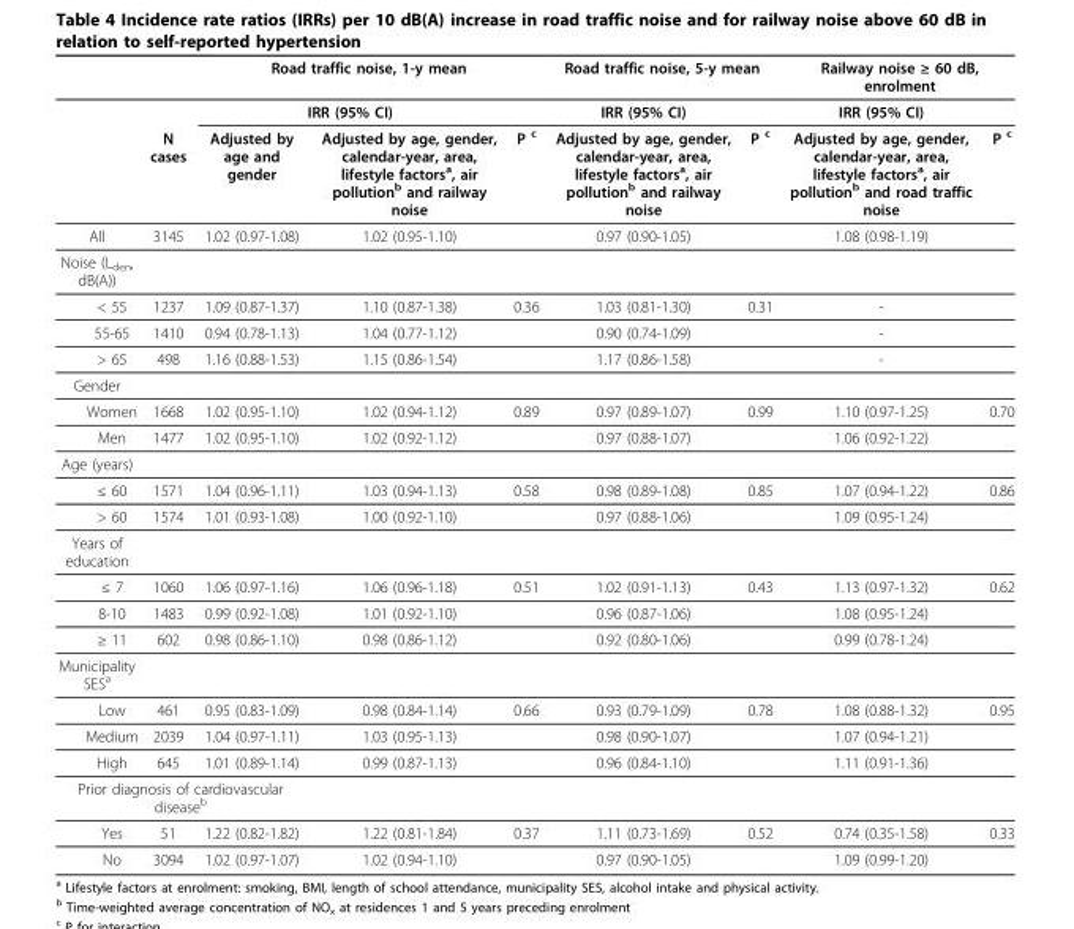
<table><thead><tr><td rowspan="3"></td><td rowspan="3">N cases</td><td colspan="3">Road traffic noise, 1-y mean</td><td colspan="2">Road traffic noise, 5-y mean</td><td colspan="2">Railway noise ≥ 60 dB, enrolment</td></tr><tr><td colspan="2">IRR (95% CI)</td><td rowspan="2">P <sup>c</sup></td><td rowspan="2">IRR (95% CI) Adjusted by age, gender, calendar-year, area, lifestyle factors<sup>a</sup>, air pollution<sup>b</sup> and railway noise</td><td rowspan="2">P <sup>c</sup></td><td rowspan="2">IRR (95% CI) Adjusted by age, gender, calendar-year, area, lifestyle factors<sup>a</sup>, air pollution<sup>b</sup> and road traffic noise</td><td rowspan="2">P <sup>c</sup></td></tr><tr><td>Adjusted by age and gender</td><td>Adjusted by age, gender, calendar-year, area, lifestyle factors<sup>a</sup>, air pollution<sup>b</sup> and railway noise</td></tr></thead><tbody><tr><td>All</td><td>3145</td><td>1.02 (0.97-1.08)</td><td>1.02 (0.95-1.10)</td><td></td><td>0.97 (0.90-1.05)</td><td></td><td>1.08 (0.98-1.19)</td><td></td></tr><tr><td colspan="9">Noise (L<sub>den</sub>, dB(A))</td></tr><tr><td>&lt; 55</td><td>1237</td><td>1.09 (0.87-1.37)</td><td>1.10 (0.87-1.38)</td><td>0.36</td><td>1.03 (0.81-1.30)</td><td>0.31</td><td>-</td><td></td></tr><tr><td>55-65</td><td>1410</td><td>0.94 (0.78-1.13)</td><td>1.04 (0.77-1.12)</td><td></td><td>0.90 (0.74-1.09)</td><td></td><td>-</td><td></td></tr><tr><td>&gt; 65</td><td>498</td><td>1.16 (0.88-1.53)</td><td>1.15 (0.86-1.54)</td><td></td><td>1.17 (0.86-1.58)</td><td></td><td>-</td><td></td></tr><tr><td colspan="9">Gender</td></tr><tr><td>Women</td><td>1668</td><td>1.02 (0.95-1.10)</td><td>1.02 (0.94-1.12)</td><td>0.89</td><td>0.97 (0.89-1.07)</td><td>0.99</td><td>1.10 (0.97-1.25)</td><td>0.70</td></tr><tr><td>Men</td><td>1477</td><td>1.02 (0.95-1.10)</td><td>1.02 (0.92-1.12)</td><td></td><td>0.97 (0.88-1.07)</td><td></td><td>1.06 (0.92-1.22)</td><td></td></tr><tr><td colspan="9">Age (years)</td></tr><tr><td>≤ 60</td><td>1571</td><td>1.04 (0.96-1.11)</td><td>1.03 (0.94-1.13)</td><td>0.58</td><td>0.98 (0.89-1.08)</td><td>0.85</td><td>1.07 (0.94-1.22)</td><td>0.86</td></tr><tr><td>&gt; 60</td><td>1574</td><td>1.01 (0.93-1.08)</td><td>1.00 (0.92-1.10)</td><td></td><td>0.97 (0.88-1.06)</td><td></td><td>1.09 (0.95-1.24)</td><td></td></tr><tr><td colspan="9">Years of education</td></tr><tr><td>≤ 7</td><td>1060</td><td>1.06 (0.97-1.16)</td><td>1.06 (0.96-1.18)</td><td>0.51</td><td>1.02 (0.91-1.13)</td><td>0.43</td><td>1.13 (0.97-1.32)</td><td>0.62</td></tr><tr><td>8-10</td><td>1483</td><td>0.99 (0.92-1.08)</td><td>1.01 (0.92-1.10)</td><td></td><td>0.96 (0.87-1.06)</td><td></td><td>1.08 (0.95-1.24)</td><td></td></tr><tr><td>≥ 11</td><td>602</td><td>0.98 (0.86-1.10)</td><td>0.98 (0.86-1.12)</td><td></td><td>0.92 (0.80-1.06)</td><td></td><td>0.99 (0.78-1.24)</td><td></td></tr><tr><td colspan="9">Municipality SES<sup>a</sup></td></tr><tr><td>Low</td><td>461</td><td>0.95 (0.83-1.09)</td><td>0.98 (0.84-1.14)</td><td>0.66</td><td>0.93 (0.79-1.09)</td><td>0.78</td><td>1.08 (0.88-1.32)</td><td>0.95</td></tr><tr><td>Medium</td><td>2039</td><td>1.04 (0.97-1.11)</td><td>1.03 (0.95-1.13)</td><td></td><td>0.98 (0.90-1.07)</td><td></td><td>1.07 (0.94-1.21)</td><td></td></tr><tr><td>High</td><td>645</td><td>1.01 (0.89-1.14)</td><td>0.99 (0.87-1.13)</td><td></td><td>0.96 (0.84-1.10)</td><td></td><td>1.11 (0.91-1.36)</td><td></td></tr><tr><td colspan="9">Prior diagnosis of cardiovascular disease<sup>b</sup></td></tr><tr><td>Yes</td><td>51</td><td>1.22 (0.82-1.82)</td><td>1.22 (0.81-1.84)</td><td>0.37</td><td>1.11 (0.73-1.69)</td><td>0.52</td><td>0.74 (0.35-1.58)</td><td>0.33</td></tr><tr><td>No</td><td>3094</td><td>1.02 (0.97-1.07)</td><td>1.02 (0.94-1.10)</td><td></td><td>0.97 (0.90-1.05)</td><td></td><td>1.09 (0.99-1.20)</td><td></td></tr></tbody></table>